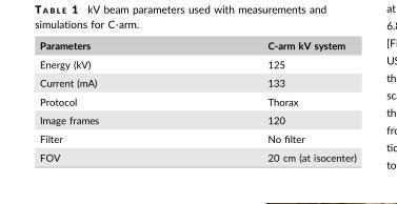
<table><thead><tr><td>Parameters</td><td>C-arm kV system</td></tr></thead><tbody><tr><td>Energy (kV)</td><td>125</td></tr><tr><td>Current (mA)</td><td>133</td></tr><tr><td>Protocol</td><td>Thorax</td></tr><tr><td>Image frames</td><td>120</td></tr><tr><td>Filter</td><td>No filter</td></tr><tr><td>FOV</td><td>20 cm (at isocenter)</td></tr></tbody></table>